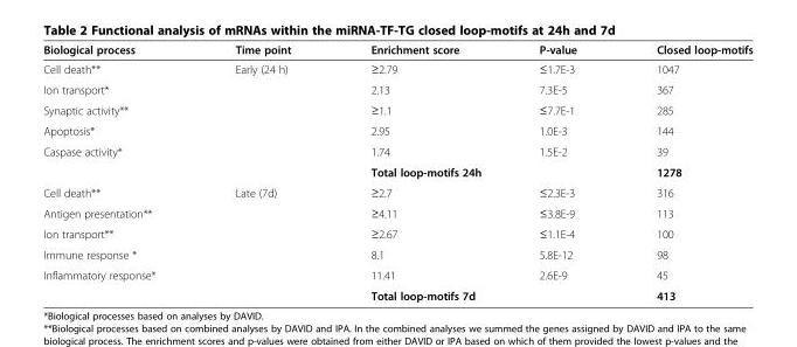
<table><thead><tr><td>Biological process</td><td>Time point</td><td>Enrichment score</td><td>P-value</td><td>Closed loop-motifs</td></tr></thead><tbody><tr><td>Cell death**</td><td rowspan="5">Early (24 h)</td><td>≥2.79</td><td>≤1.7E-3</td><td>1047</td></tr><tr><td>Ion transport*</td><td>2.13</td><td>7.3E-5</td><td>367</td></tr><tr><td>Synaptic activity**</td><td>≥1.1</td><td>≤7.7E-1</td><td>285</td></tr><tr><td>Apoptosis*</td><td>2.95</td><td>1.0E-3</td><td>144</td></tr><tr><td rowspan="2">Caspase activity*</td><td>1.74</td><td>1.5E-2</td><td>39</td></tr><tr><td></td><td colspan="2">Total loop-motifs 24h</td><td>1278</td></tr><tr><td>Cell death**</td><td rowspan="5">Late (7d)</td><td>≥2.7</td><td>≤2.3E-3</td><td>316</td></tr><tr><td>Antigen presentation**</td><td>≥4.11</td><td>≤3.8E-9</td><td>113</td></tr><tr><td>Ion transport**</td><td>≥2.67</td><td>≤1.1E-4</td><td>100</td></tr><tr><td>Immune response *</td><td>8.1</td><td>5.8E-12</td><td>98</td></tr><tr><td>Inflammatory response*</td><td>11.41</td><td>2.6E-9</td><td>45</td></tr><tr><td colspan="2"></td><td colspan="2">Total loop-motifs 7d</td><td>413</td></tr></tbody></table>